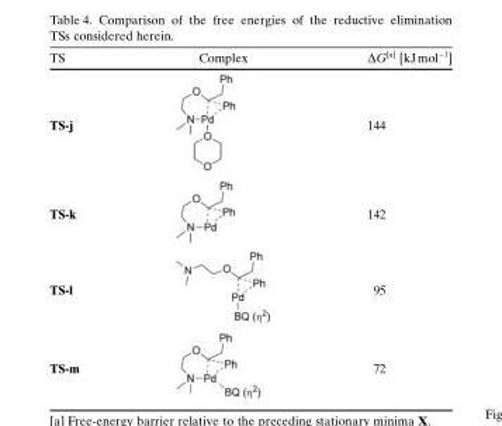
<table><thead><tr><td>TS</td><td>Complex</td><td>ΔG<sup>[a]</sup> [kJmol<sup>−1</sup>]</td></tr></thead><tbody><tr><td>TS-j</td><td></td><td>144</td></tr><tr><td>TS-k</td><td></td><td>142</td></tr><tr><td>TS-l</td><td></td><td>95</td></tr><tr><td>TS-m</td><td></td><td>72</td></tr></tbody></table>